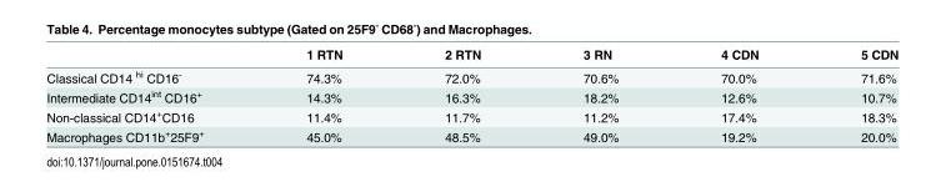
<table><thead><tr><td></td><td>1 RTN</td><td>2 RTN</td><td>3 RN</td><td>4 CDN</td><td>5 CDN</td></tr></thead><tbody><tr><td>Classical CD14 <sup>hi</sup> CD16<sup>-</sup></td><td>74.3%</td><td>72.0%</td><td>70.6%</td><td>70.0%</td><td>71.6%</td></tr><tr><td>Intermediate CD14<sup>int</sup> CD16<sup>+</sup></td><td>14.3%</td><td>16.3%</td><td>18.2%</td><td>12.6%</td><td>10.7%</td></tr><tr><td>Non-classical CD14<sup>+</sup>CD16</td><td>11.4%</td><td>11.7%</td><td>11.2%</td><td>17.4%</td><td>18.3%</td></tr><tr><td>Macrophages CD11b<sup>+</sup>25F9<sup>+</sup></td><td>45.0%</td><td>48.5%</td><td>49.0%</td><td>19.2%</td><td>20.0%</td></tr></tbody></table>